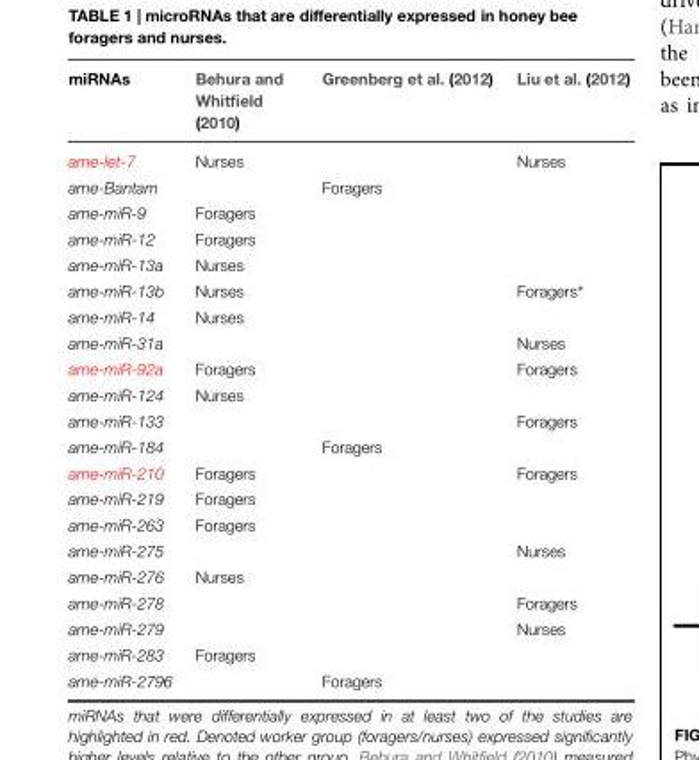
<table><thead><tr><td>miRNAs</td><td>Behura and Whitfield (2010)</td><td>Greenberg et al. (2012)</td><td>Liu et al. (2012)</td></tr></thead><tbody><tr><td>ame-let-7</td><td>Nurses</td><td></td><td>Nurses</td></tr><tr><td>ame-Bantam</td><td></td><td>Foragers</td><td></td></tr><tr><td>ame-miR-9</td><td>Foragers</td><td></td><td></td></tr><tr><td>ame-miR-12</td><td>Foragers</td><td></td><td></td></tr><tr><td>ame-miR-13a</td><td>Nurses</td><td></td><td></td></tr><tr><td>ame-miR-13b</td><td>Nurses</td><td></td><td>Foragers∗</td></tr><tr><td>ame-miR-14</td><td>Nurses</td><td></td><td></td></tr><tr><td>ame-miR-31a</td><td></td><td></td><td>Nurses</td></tr><tr><td>ame-miR-92a</td><td>Foragers</td><td></td><td>Foragers</td></tr><tr><td>ame-miR-124</td><td>Nurses</td><td></td><td></td></tr><tr><td>ame-miR-133</td><td></td><td></td><td>Foragers</td></tr><tr><td>ame-miR-184</td><td></td><td>Foragers</td><td></td></tr><tr><td>ame-miR-210</td><td>Foragers</td><td></td><td>Foragers</td></tr><tr><td>ame-miR-219</td><td>Foragers</td><td></td><td></td></tr><tr><td>ame-miR-263</td><td>Foragers</td><td></td><td></td></tr><tr><td>ame-miR-275</td><td></td><td></td><td>Nurses</td></tr><tr><td>ame-miR-276</td><td>Nurses</td><td></td><td></td></tr><tr><td>ame-miR-278</td><td></td><td></td><td>Foragers</td></tr><tr><td>ame-miR-279</td><td></td><td></td><td>Nurses</td></tr><tr><td>ame-miR-283</td><td>Foragers</td><td></td><td></td></tr><tr><td>ame-miR-2796</td><td></td><td>Foragers</td><td></td></tr></tbody></table>